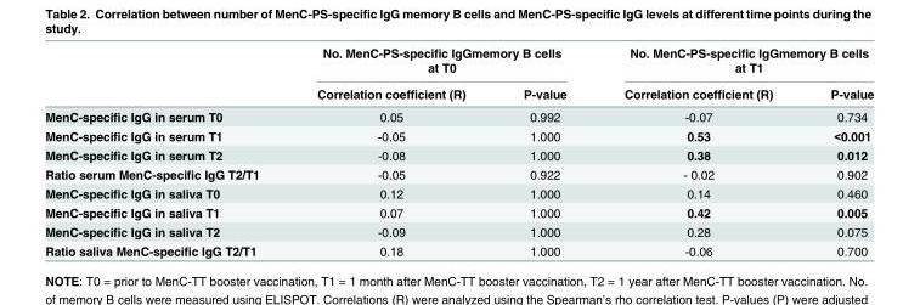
<table><thead><tr><td rowspan="2"></td><td colspan="2">No. MenC-PS-specific IgGmemory B cells at T0</td><td colspan="2">No. MenC-PS-specific IgGmemory B cells at T1</td></tr><tr><td>Correlation coefficient (R)</td><td>P-value</td><td>Correlation coefficient (R)</td><td>P-value</td></tr></thead><tbody><tr><td>MenC-specific IgG in serum T0</td><td>0.05</td><td>0.992</td><td>-0.07</td><td>0.734</td></tr><tr><td>MenC-specific IgG in serum T1</td><td>-0.05</td><td>1.000</td><td>0.53</td><td>&lt;0.001</td></tr><tr><td>MenC-specific IgG in serum T2</td><td>-0.08</td><td>1.000</td><td>0.38</td><td>0.012</td></tr><tr><td>Ratio serum MenC-specific IgG T2/T1</td><td>-0.05</td><td>0.922</td><td>- 0.02</td><td>0.902</td></tr><tr><td>MenC-specific IgG in saliva T0</td><td>0.12</td><td>1.000</td><td>0.14</td><td>0.460</td></tr><tr><td>MenC-specific IgG in saliva T1</td><td>0.07</td><td>1.000</td><td>0.42</td><td>0.005</td></tr><tr><td>MenC-specific IgG in saliva T2</td><td>-0.09</td><td>1.000</td><td>0.28</td><td>0.075</td></tr><tr><td>Ratio saliva MenC-specific IgG T2/T1</td><td>0.18</td><td>1.000</td><td>-0.06</td><td>0.700</td></tr></tbody></table>